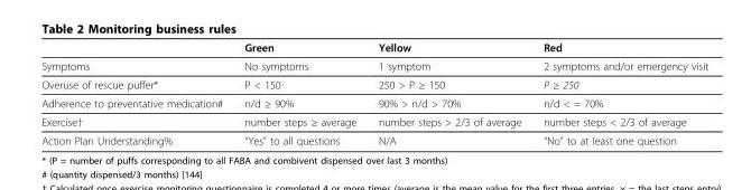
<table><thead><tr><td></td><td>Green</td><td>Yellow</td><td>Red</td></tr></thead><tbody><tr><td>Symptoms</td><td>No symptoms</td><td>1 symptom</td><td>2 symptoms and/or emergency visit</td></tr><tr><td>Overuse of rescue puffer*</td><td>P &lt; 150</td><td>250 &gt; P ≥ 150</td><td>P ≥ 250</td></tr><tr><td>Adherence to preventative medication#</td><td>n/d ≥ 90%</td><td>90% &gt; n/d &gt; 70%</td><td>n/d &lt; = 70%</td></tr><tr><td>Exercise†</td><td>number steps ≥ average</td><td>number steps &gt; 2/3 of average</td><td>number steps &lt; 2/3 of average</td></tr><tr><td>Action Plan Understanding%</td><td>“Yes” to all questions</td><td>N/A</td><td>“No” to at least one question</td></tr></tbody></table>